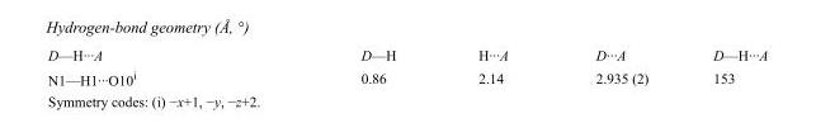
<table><tbody><tr><td>D—H···A</td><td>D—H</td><td>H···A</td><td>D···A</td><td>D—H···A</td></tr><tr><td>N1—H1···O10<sup>i</sup></td><td>0.86</td><td>2.14</td><td>2.935 (2)</td><td>153</td></tr></tbody></table>